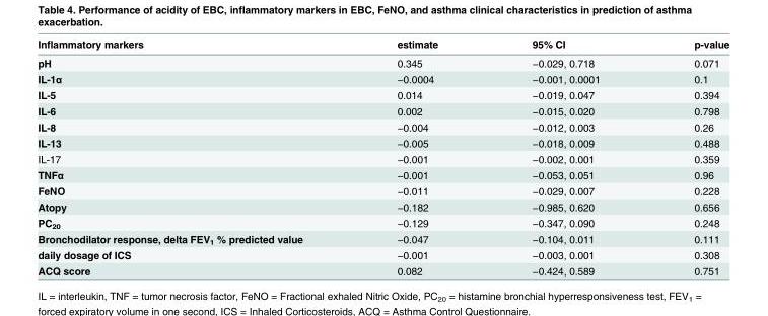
<table><thead><tr><td>Inflammatory markers</td><td>estimate</td><td>95% CI</td><td>p-value</td></tr></thead><tbody><tr><td>pH</td><td>0.345</td><td>−0.029, 0.718</td><td>0.071</td></tr><tr><td>IL-1α</td><td>−0.0004</td><td>−0.001, 0.0001</td><td>0.1</td></tr><tr><td>IL-5</td><td>0.014</td><td>−0.019, 0.047</td><td>0.394</td></tr><tr><td>IL-6</td><td>0.002</td><td>−0.015, 0.020</td><td>0.798</td></tr><tr><td>IL-8</td><td>−0.004</td><td>−0.012, 0.003</td><td>0.26</td></tr><tr><td>IL-13</td><td>−0.005</td><td>−0.018, 0.009</td><td>0.488</td></tr><tr><td>IL-17</td><td>−0.001</td><td>−0.002, 0.001</td><td>0.359</td></tr><tr><td>TNFα</td><td>−0.001</td><td>−0.053, 0.051</td><td>0.96</td></tr><tr><td>FeNO</td><td>−0.011</td><td>−0.029, 0.007</td><td>0.228</td></tr><tr><td>Atopy</td><td>−0.182</td><td>−0.985, 0.620</td><td>0.656</td></tr><tr><td>PC<sub>20</sub></td><td>−0.129</td><td>−0.347, 0.090</td><td>0.248</td></tr><tr><td>Bronchodilator response, delta FEV<sub>1</sub> % predicted value</td><td>−0.047</td><td>−0.104, 0.011</td><td>0.111</td></tr><tr><td>daily dosage of ICS</td><td>−0.001</td><td>−0.003, 0.001</td><td>0.308</td></tr><tr><td>ACQ score</td><td>0.082</td><td>−0.424, 0.589</td><td>0.751</td></tr></tbody></table>